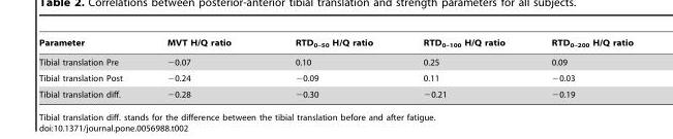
<table><thead><tr><td>Parameter</td><td>MVT H/Q ratio</td><td>RTD<sub>0–50</sub> H/Q ratio</td><td>RTD<sub>0–100</sub> H/Q ratio</td><td>RTD<sub>0–200</sub> H/Q ratio</td></tr></thead><tbody><tr><td>Tibial translation Pre</td><td>−0.07</td><td>0.10</td><td>0.25</td><td>0.09</td></tr><tr><td>Tibial translation Post</td><td>−0.24</td><td>−0.09</td><td>0.11</td><td>−0.03</td></tr><tr><td>Tibial translation diff.</td><td>−0.28</td><td>−0.30</td><td>−0.21</td><td>−0.19</td></tr></tbody></table>